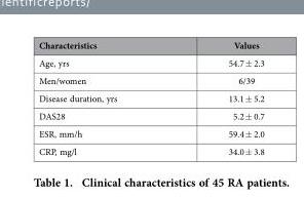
<table><thead><tr><td>Characteristics</td><td>Values</td></tr></thead><tbody><tr><td>Age, yrs</td><td>54.7 ± 2.3</td></tr><tr><td>Men/women</td><td>6/39</td></tr><tr><td>Disease duration, yrs</td><td>13.1 ± 5.2</td></tr><tr><td>DAS28</td><td>5.2 ± 0.7</td></tr><tr><td>ESR, mm/h</td><td>59.4 ± 2.0</td></tr><tr><td>CRP, mg/l</td><td>34.0 ± 3.8</td></tr></tbody></table>